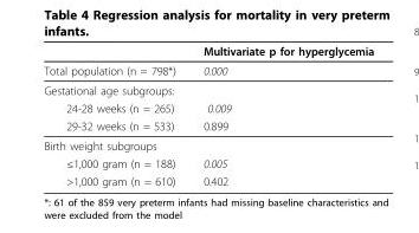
<table><thead><tr><td></td><td>Multivariate p for hyperglycemia</td></tr></thead><tbody><tr><td>Total population (n = 798*)</td><td>0.000</td></tr><tr><td colspan="2">Gestational age subgroups:</td></tr><tr><td>24-28 weeks (n = 265)</td><td>0.009</td></tr><tr><td>29-32 weeks (n = 533)</td><td>0.899</td></tr><tr><td colspan="2">Birth weight subgroups</td></tr><tr><td>≤1,000 gram (n = 188)</td><td>0.005</td></tr><tr><td>&gt;1,000 gram (n = 610)</td><td>0.402</td></tr></tbody></table>